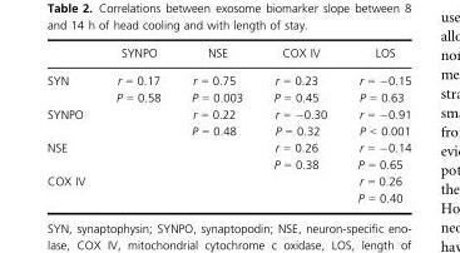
<table><thead><tr><td></td><td>SYNPO</td><td>NSE</td><td>COX IV</td><td>LOS</td></tr></thead><tbody><tr><td>SYN</td><td>r = 0.17 P = 0.58</td><td>r = 0.75 P = 0.003</td><td>r = 0.23 P = 0.45</td><td>r = −0.15 P = 0.63</td></tr><tr><td>SYNPO</td><td></td><td>r = 0.22 P = 0.48</td><td>r = −0.30 P = 0.32</td><td>r = −0.91 P &lt; 0.001</td></tr><tr><td>NSE</td><td></td><td></td><td>r = 0.26 P = 0.38</td><td>r = −0.14 P = 0.65</td></tr><tr><td>COX IV</td><td></td><td></td><td></td><td>r = 0.26 P = 0.40</td></tr></tbody></table>